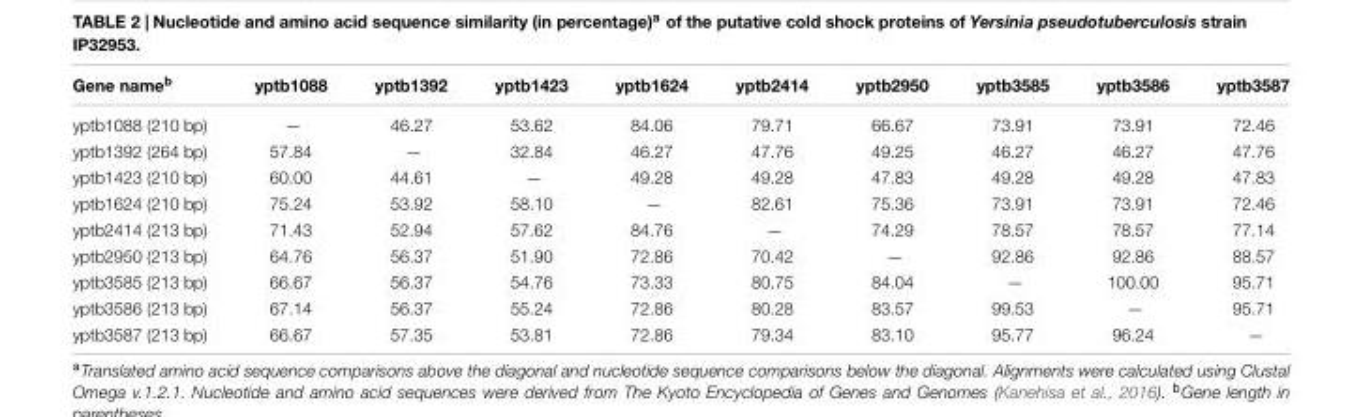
<table><thead><tr><td>Gene name<sup>b</sup></td><td>yptb1088</td><td>yptb1392</td><td>yptb1423</td><td>yptb1624</td><td>yptb2414</td><td>yptb2950</td><td>yptb3585</td><td>yptb3586</td><td>yptb3587</td></tr></thead><tbody><tr><td>yptb1088 (210 bp)</td><td>—</td><td>46.27</td><td>53.62</td><td>84.06</td><td>79.71</td><td>66.67</td><td>73.91</td><td>73.91</td><td>72.46</td></tr><tr><td>yptb1392 (264 bp)</td><td>57.84</td><td>—</td><td>32.84</td><td>46.27</td><td>47.76</td><td>49.25</td><td>46.27</td><td>46.27</td><td>47.76</td></tr><tr><td>yptb1423 (210 bp)</td><td>60.00</td><td>44.61</td><td>—</td><td>49.28</td><td>49.28</td><td>47.83</td><td>49.28</td><td>49.28</td><td>47.83</td></tr><tr><td>yptb1624 (210 bp)</td><td>75.24</td><td>53.92</td><td>58.10</td><td>—</td><td>82.61</td><td>75.36</td><td>73.91</td><td>73.91</td><td>72.46</td></tr><tr><td>yptb2414 (213 bp)</td><td>71.43</td><td>52.94</td><td>57.62</td><td>84.76</td><td>—</td><td>74.29</td><td>78.57</td><td>78.57</td><td>77.14</td></tr><tr><td>yptb2950 (213 bp)</td><td>64.76</td><td>56.37</td><td>51.90</td><td>72.86</td><td>70.42</td><td>—</td><td>92.86</td><td>92.86</td><td>88.57</td></tr><tr><td>yptb3585 (213 bp)</td><td>66.67</td><td>56.37</td><td>54.76</td><td>73.33</td><td>80.75</td><td>84.04</td><td>—</td><td>100.00</td><td>95.71</td></tr><tr><td>yptb3586 (213 bp)</td><td>67.14</td><td>56.37</td><td>55.24</td><td>72.86</td><td>80.28</td><td>83.57</td><td>99.53</td><td>—</td><td>95.71</td></tr><tr><td>yptb3587 (213 bp)</td><td>66.67</td><td>57.35</td><td>53.81</td><td>72.86</td><td>79.34</td><td>83.10</td><td>95.77</td><td>96.24</td><td>—</td></tr></tbody></table>